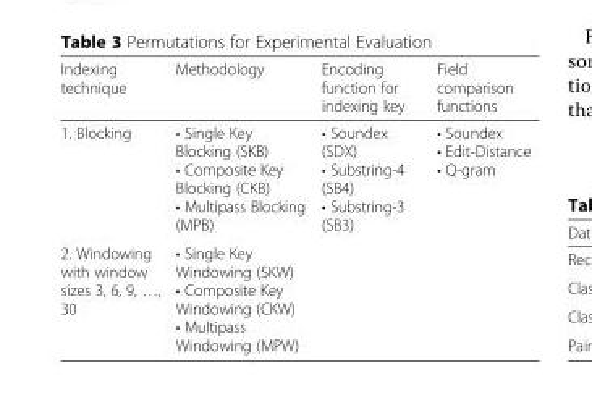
<table><thead><tr><td>Indexing technique</td><td>Methodology</td><td>Encoding function for indexing key</td><td>Field comparison functions</td></tr></thead><tbody><tr><td>1. Blocking</td><td>• Single Key Blocking (SKB) • Composite Key Blocking (CKB) • Multipass Blocking (MPB)</td><td rowspan="2">• Soundex (SDX) • Substring-4 (SB4) • Substring-3 (SB3)</td><td rowspan="2">• Soundex • Edit-Distance • Q-gram</td></tr><tr><td>2. Windowing with window sizes 3, 6, 9, …, 30</td><td>• Single Key Windowing (SKW) • Composite Key Windowing (CKW) • Multipass Windowing (MPW)</td></tr></tbody></table>